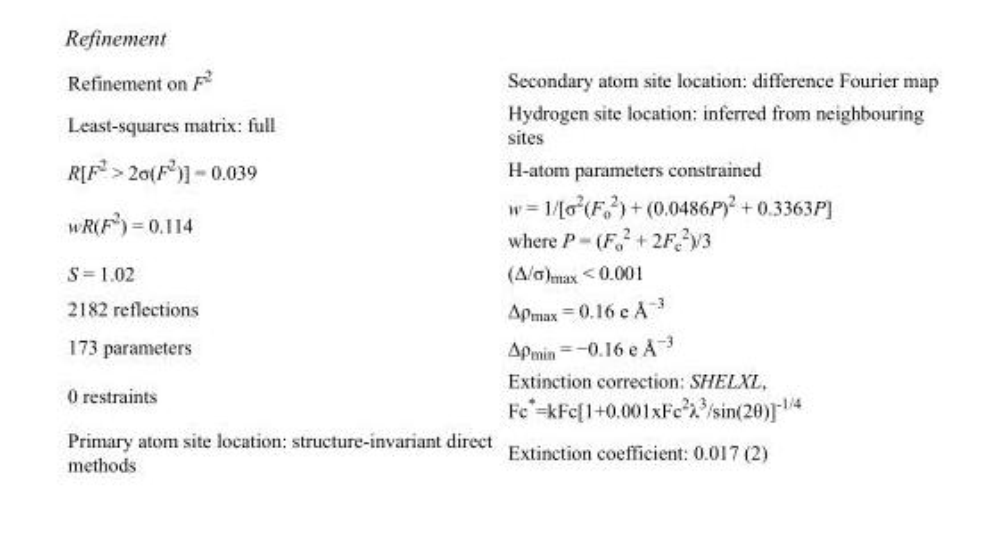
<table><tbody><tr><td>Refinement on F<sup>2</sup></td><td>Secondary atom site location: difference Fourier map</td></tr><tr><td>Least-squares matrix: full</td><td>Hydrogen site location: inferred from neighbouring sites</td></tr><tr><td>R[F<sup>2</sup> &gt; 2σ(F<sup>2</sup>)] = 0.039</td><td>H-atom parameters constrained</td></tr><tr><td>wR(F<sup>2</sup>) = 0.114</td><td>w = 1/[σ<sup>2</sup>(F<sub>o</sub> <sup>2</sup>) + (0.0486P)<sup>2</sup> + 0.3363P] where P = (F<sub>o</sub> <sup>2</sup> + 2F<sub>c</sub> <sup>2</sup>)/3</td></tr><tr><td>S = 1.02</td><td>(Δ/σ)<sub>max</sub> &lt; 0.001</td></tr><tr><td>2182 reflections</td><td>Δρ<sub>max</sub> = 0.16 e Å<sup>−3</sup></td></tr><tr><td>173 parameters</td><td>Δρ<sub>min</sub> = −0.16 e Å<sup>−3</sup></td></tr><tr><td>0 restraints</td><td>Extinction correction: SHELXL, Fc*=kFc[1+0.001xFc<sup>2</sup>λ<sup>3</sup>/sin(2θ)]<sup>-1/4</sup></td></tr><tr><td>Primary atom site location: structure-invariant direct methods</td><td>Extinction coefficient: 0.017 (2)</td></tr></tbody></table>